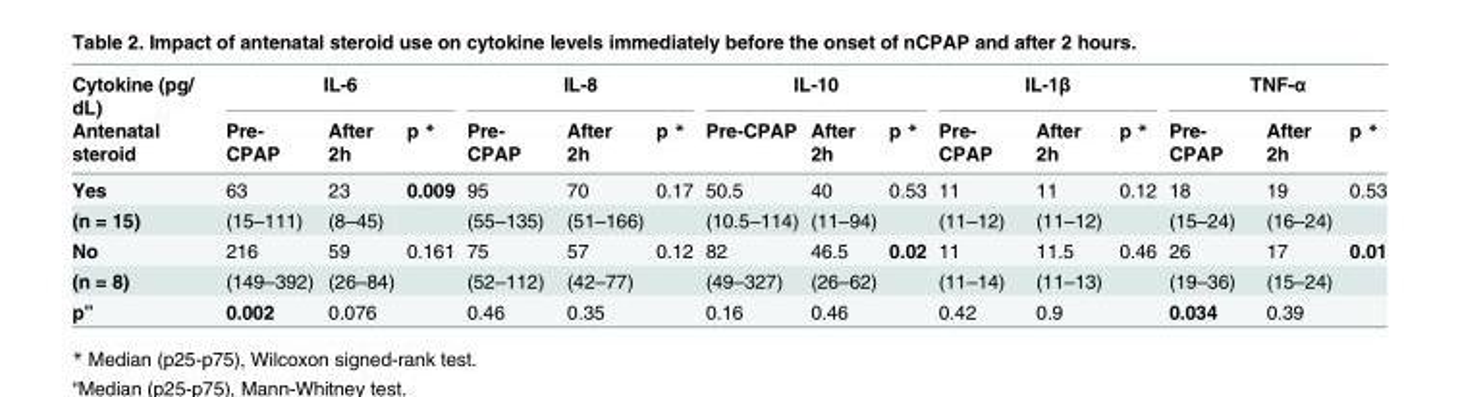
<table><thead><tr><td rowspan="3">Cytokine (pg/ dL) Antenatal steroid</td><td colspan="3">IL-6</td><td colspan="3">IL-8</td><td colspan="3">IL-10</td><td colspan="3">IL-1β</td><td colspan="3">TNF-α</td></tr><tr><td rowspan="2">Pre- CPAP</td><td rowspan="2">After 2h</td><td rowspan="2">p *</td><td rowspan="2">Pre- CPAP</td><td rowspan="2">After 2h</td><td rowspan="2">p *</td><td rowspan="2">Pre-CPAP</td><td rowspan="2">After 2h</td><td rowspan="2">p *</td><td rowspan="2">Pre- CPAP</td><td rowspan="2">After 2h</td><td rowspan="2">p *</td><td rowspan="2">Pre- CPAP</td><td rowspan="2">After 2h</td><td rowspan="2">p *</td></tr><tr></tr></thead><tbody><tr><td>Yes</td><td>63</td><td>23</td><td>0.009</td><td>95</td><td>70</td><td>0.17</td><td>50.5</td><td>40</td><td>0.53</td><td>11</td><td>11</td><td>0.12</td><td>18</td><td>19</td><td>0.53</td></tr><tr><td>(n = 15)</td><td>(15–111)</td><td>(8–45)</td><td></td><td>(55–135)</td><td>(51–166)</td><td></td><td>(10.5–114)</td><td>(11–94)</td><td></td><td>(11–12)</td><td>(11–12)</td><td></td><td>(15–24)</td><td>(16–24)</td><td></td></tr><tr><td>No</td><td>216</td><td>59</td><td>0.161</td><td>75</td><td>57</td><td>0.12</td><td>82</td><td>46.5</td><td>0.02</td><td>11</td><td>11.5</td><td>0.46</td><td>26</td><td>17</td><td>0.01</td></tr><tr><td>(n = 8)</td><td>(149–392)</td><td>(26–84)</td><td></td><td>(52–112)</td><td>(42–77)</td><td></td><td>(49–327)</td><td>(26–62)</td><td></td><td>(11–14)</td><td>(11–13)</td><td></td><td>(19–36)</td><td>(15–24)</td><td></td></tr><tr><td>p”</td><td>0.002</td><td>0.076</td><td></td><td>0.46</td><td>0.35</td><td></td><td>0.16</td><td>0.46</td><td></td><td>0.42</td><td>0.9</td><td></td><td>0.034</td><td>0.39</td><td></td></tr></tbody></table>